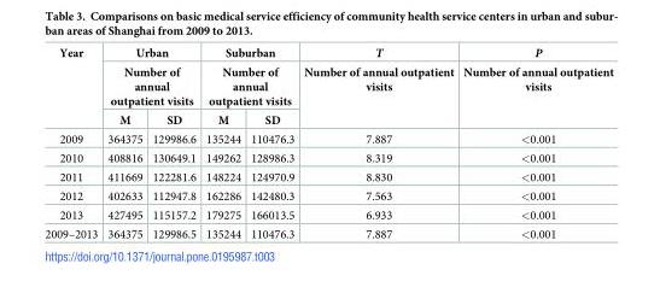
<table><thead><tr><td rowspan="3">Year</td><td rowspan="2" colspan="2">Urban Number of annual outpatient visits</td><td rowspan="2" colspan="2">Suburban Number of annual outpatient visits</td><td rowspan="3">T Number of annual outpatient visits</td><td rowspan="3">P Number of annual outpatient visits</td></tr><tr></tr><tr><td>M</td><td>SD</td><td>M</td><td>SD</td></tr></thead><tbody><tr><td>2009</td><td>364375</td><td>129986.6</td><td>135244</td><td>110476.3</td><td>7.887</td><td>&lt;0.001</td></tr><tr><td>2010</td><td>408816</td><td>130649.1</td><td>149262</td><td>128986.3</td><td>8.319</td><td>&lt;0.001</td></tr><tr><td>2011</td><td>411669</td><td>122281.6</td><td>148224</td><td>124970.9</td><td>8.830</td><td>&lt;0.001</td></tr><tr><td>2012</td><td>402633</td><td>112947.8</td><td>162286</td><td>142480.3</td><td>7.563</td><td>&lt;0.001</td></tr><tr><td>2013</td><td>427495</td><td>115157.2</td><td>179275</td><td>166013.5</td><td>6.933</td><td>&lt;0.001</td></tr><tr><td>2009–2013</td><td>364375</td><td>129986.5</td><td>135244</td><td>110476.3</td><td>7.887</td><td>&lt;0.001</td></tr></tbody></table>